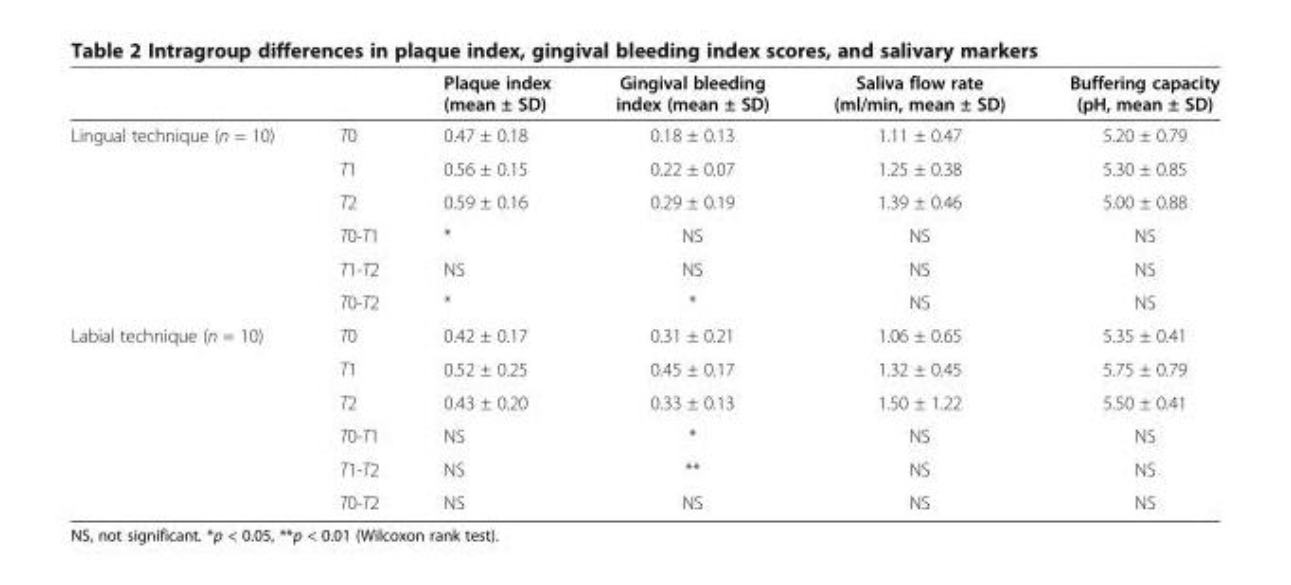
<table><thead><tr><td></td><td></td><td>Plaque index (mean ± SD)</td><td>Gingival bleeding index (mean ± SD)</td><td>Saliva flow rate (ml/min, mean ± SD)</td><td>Buffering capacity (pH, mean ± SD)</td></tr></thead><tbody><tr><td rowspan="6">Lingual technique (n = 10)</td><td>T0</td><td>0.47 ± 0.18</td><td>0.18 ± 0.13</td><td>1.11 ± 0.47</td><td>5.20 ± 0.79</td></tr><tr><td>T1</td><td>0.56 ± 0.15</td><td>0.22 ± 0.07</td><td>1.25 ± 0.38</td><td>5.30 ± 0.85</td></tr><tr><td>T2</td><td>0.59 ± 0.16</td><td>0.29 ± 0.19</td><td>1.39 ± 0.46</td><td>5.00 ± 0.88</td></tr><tr><td>T0-T1</td><td>*</td><td>NS</td><td>NS</td><td>NS</td></tr><tr><td>T1-T2</td><td>NS</td><td>NS</td><td>NS</td><td>NS</td></tr><tr><td>T0-T2</td><td>*</td><td>*</td><td>NS</td><td>NS</td></tr><tr><td rowspan="6">Labial technique (n = 10)</td><td>T0</td><td>0.42 ± 0.17</td><td>0.31 ± 0.21</td><td>1.06 ± 0.65</td><td>5.35 ± 0.41</td></tr><tr><td>T1</td><td>0.52 ± 0.25</td><td>0.45 ± 0.17</td><td>1.32 ± 0.45</td><td>5.75 ± 0.79</td></tr><tr><td>T2</td><td>0.43 ± 0.20</td><td>0.33 ± 0.13</td><td>1.50 ± 1.22</td><td>5.50 ± 0.41</td></tr><tr><td>T0-T1</td><td>NS</td><td>*</td><td>NS</td><td>NS</td></tr><tr><td>T1-T2</td><td>NS</td><td>**</td><td>NS</td><td>NS</td></tr><tr><td>T0-T2</td><td>NS</td><td>NS</td><td>NS</td><td>NS</td></tr></tbody></table>